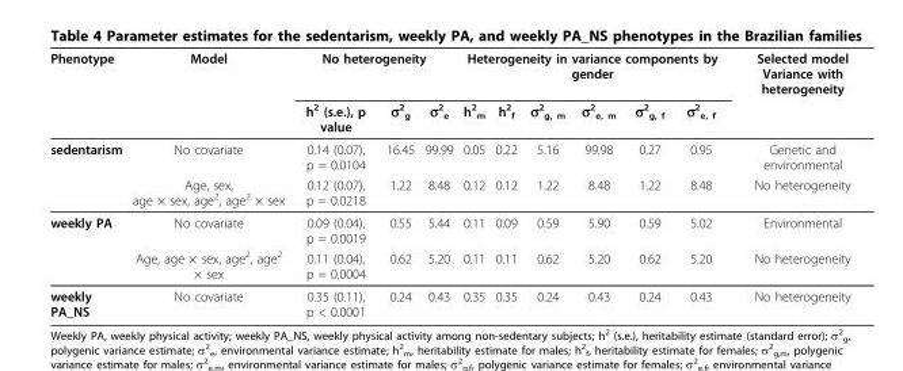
<table><thead><tr><td rowspan="2">Phenotype</td><td rowspan="2">Model</td><td colspan="3">No heterogeneity</td><td colspan="6">Heterogeneity in variance components by gender</td><td rowspan="2">Selected model Variance with heterogeneity</td></tr><tr><td>h<sup>2</sup> (s.e.), p value</td><td>σ<sup>2</sup> <sub>g</sub></td><td>σ<sup>2</sup> <sub>e</sub></td><td>h<sup>2</sup> <sub>m</sub></td><td>h<sup>2</sup> <sub>f</sub></td><td>σ<sup>2</sup> <sub>g, m</sub></td><td>σ<sup>2</sup> <sub>e, m</sub></td><td>σ<sup>2</sup> <sub>g, f</sub></td><td>σ<sup>2</sup> <sub>e, f</sub></td></tr></thead><tbody><tr><td rowspan="2">sedentarism</td><td>No covariate</td><td>0.14 (0.07), p = 0.0104</td><td>16.45</td><td>99.99</td><td>0.05</td><td>0.22</td><td>5.16</td><td>99.98</td><td>0.27</td><td>0.95</td><td>Genetic and environmental</td></tr><tr><td>Age, sex, age × sex, age<sup>2</sup>, age<sup>2</sup> × sex</td><td>0.12 (0.07), p = 0.0218</td><td>1.22</td><td>8.48</td><td>0.12</td><td>0.12</td><td>1.22</td><td>8.48</td><td>1.22</td><td>8.48</td><td>No heterogeneity</td></tr><tr><td rowspan="2">weekly PA</td><td>No covariate</td><td>0.09 (0.04), p = 0.0019</td><td>0.55</td><td>5.44</td><td>0.11</td><td>0.09</td><td>0.59</td><td>5.90</td><td>0.59</td><td>5.02</td><td>Environmental</td></tr><tr><td>Age, age × sex, age<sup>2</sup>, age<sup>2</sup> × sex</td><td>0.11 (0.04), p = 0.0004</td><td>0.62</td><td>5.20</td><td>0.11</td><td>0.11</td><td>0.62</td><td>5.20</td><td>0.62</td><td>5.20</td><td>No heterogeneity</td></tr><tr><td>weekly PA_NS</td><td>No covariate</td><td>0.35 (0.11), p &lt; 0.0001</td><td>0.24</td><td>0.43</td><td>0.35</td><td>0.35</td><td>0.24</td><td>0.43</td><td>0.24</td><td>0.43</td><td>No heterogeneity</td></tr></tbody></table>